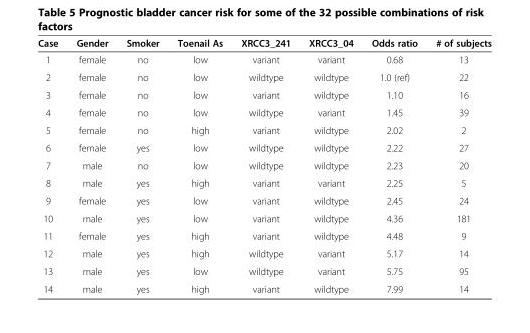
<table><thead><tr><td>Case</td><td>Gender</td><td>Smoker</td><td>Toenail As</td><td>XRCC3_241</td><td>XRCC3_04</td><td>Odds ratio</td><td># of subjects</td></tr></thead><tbody><tr><td>1</td><td>female</td><td>no</td><td>low</td><td>variant</td><td>variant</td><td>0.68</td><td>13</td></tr><tr><td>2</td><td>female</td><td>no</td><td>low</td><td>wildtype</td><td>wildtype</td><td>1.0 (ref)</td><td>22</td></tr><tr><td>3</td><td>female</td><td>no</td><td>low</td><td>variant</td><td>wildtype</td><td>1.10</td><td>16</td></tr><tr><td>4</td><td>female</td><td>no</td><td>low</td><td>wildtype</td><td>variant</td><td>1.45</td><td>39</td></tr><tr><td>5</td><td>female</td><td>no</td><td>high</td><td>variant</td><td>wildtype</td><td>2.02</td><td>2</td></tr><tr><td>6</td><td>female</td><td>yes</td><td>low</td><td>wildtype</td><td>wildtype</td><td>2.22</td><td>27</td></tr><tr><td>7</td><td>male</td><td>no</td><td>low</td><td>wildtype</td><td>wildtype</td><td>2.23</td><td>20</td></tr><tr><td>8</td><td>male</td><td>yes</td><td>high</td><td>variant</td><td>variant</td><td>2.25</td><td>5</td></tr><tr><td>9</td><td>female</td><td>yes</td><td>low</td><td>variant</td><td>wildtype</td><td>2.45</td><td>24</td></tr><tr><td>10</td><td>male</td><td>yes</td><td>low</td><td>variant</td><td>wildtype</td><td>4.36</td><td>181</td></tr><tr><td>11</td><td>female</td><td>yes</td><td>high</td><td>variant</td><td>wildtype</td><td>4.48</td><td>9</td></tr><tr><td>12</td><td>male</td><td>yes</td><td>high</td><td>wildtype</td><td>variant</td><td>5.17</td><td>14</td></tr><tr><td>13</td><td>male</td><td>yes</td><td>low</td><td>wildtype</td><td>variant</td><td>5.75</td><td>95</td></tr><tr><td>14</td><td>male</td><td>yes</td><td>high</td><td>variant</td><td>wildtype</td><td>7.99</td><td>14</td></tr></tbody></table>